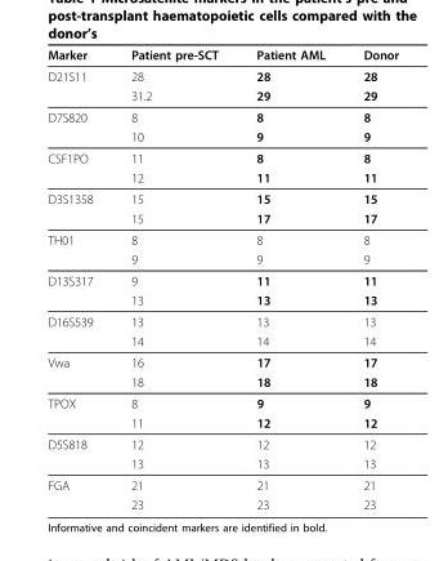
<table><thead><tr><td>Marker</td><td>Patient pre-SCT</td><td>Patient AML</td><td>Donor</td></tr></thead><tbody><tr><td rowspan="2">D21S11</td><td>28</td><td>28</td><td>28</td></tr><tr><td>31.2</td><td>29</td><td>29</td></tr><tr><td rowspan="2">D7S820</td><td>8</td><td>8</td><td>8</td></tr><tr><td>10</td><td>9</td><td>9</td></tr><tr><td rowspan="2">CSF1PO</td><td>11</td><td>8</td><td>8</td></tr><tr><td>12</td><td>11</td><td>11</td></tr><tr><td rowspan="2">D3S1358</td><td>15</td><td>15</td><td>15</td></tr><tr><td>15</td><td>17</td><td>17</td></tr><tr><td rowspan="2">TH01</td><td>8</td><td>8</td><td>8</td></tr><tr><td>9</td><td>9</td><td>9</td></tr><tr><td rowspan="2">D13S317</td><td>9</td><td>11</td><td>11</td></tr><tr><td>13</td><td>13</td><td>13</td></tr><tr><td rowspan="2">D16S539</td><td>13</td><td>13</td><td>13</td></tr><tr><td>14</td><td>14</td><td>14</td></tr><tr><td rowspan="2">Vwa</td><td>16</td><td>17</td><td>17</td></tr><tr><td>18</td><td>18</td><td>18</td></tr><tr><td rowspan="2">TPOX</td><td>8</td><td>9</td><td>9</td></tr><tr><td>11</td><td>12</td><td>12</td></tr><tr><td rowspan="2">D5S818</td><td>12</td><td>12</td><td>12</td></tr><tr><td>13</td><td>13</td><td>13</td></tr><tr><td rowspan="2">FGA</td><td>21</td><td>21</td><td>21</td></tr><tr><td>23</td><td>23</td><td>23</td></tr></tbody></table>